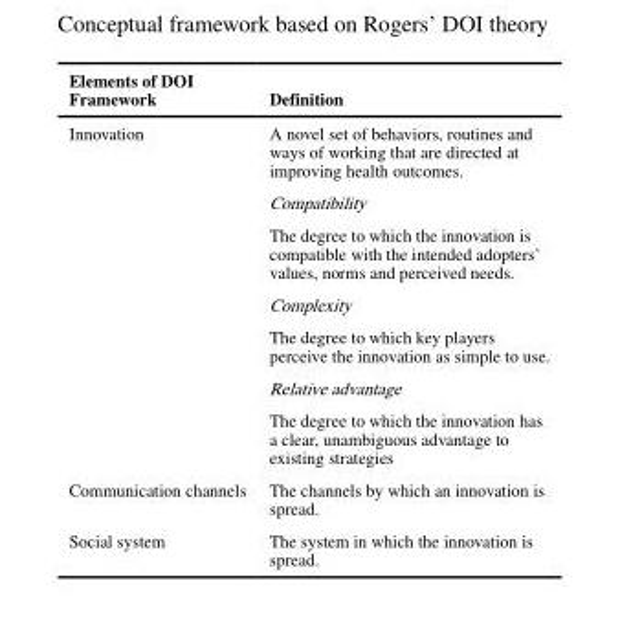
<table><thead><tr><td>Elements of DOI Framework</td><td>Definition</td></tr></thead><tbody><tr><td rowspan="7">Innovation</td><td>A novel set of behaviors, routines and ways of working that are directed at improving health outcomes.</td></tr><tr><td>Compatibility</td></tr><tr><td>The degree to which the innovation is compatible with the intended adopters’ values, norms and perceived needs.</td></tr><tr><td>Complexity</td></tr><tr><td>The degree to which key players perceive the innovation as simple to use.</td></tr><tr><td>Relative advantage</td></tr><tr><td>The degree to which the innovation has a clear, unambiguous advantage to existing strategies</td></tr><tr><td>Communication channels</td><td>The channels by which an innovation is spread.</td></tr><tr><td>Social system</td><td>The system in which the innovation is spread.</td></tr></tbody></table>